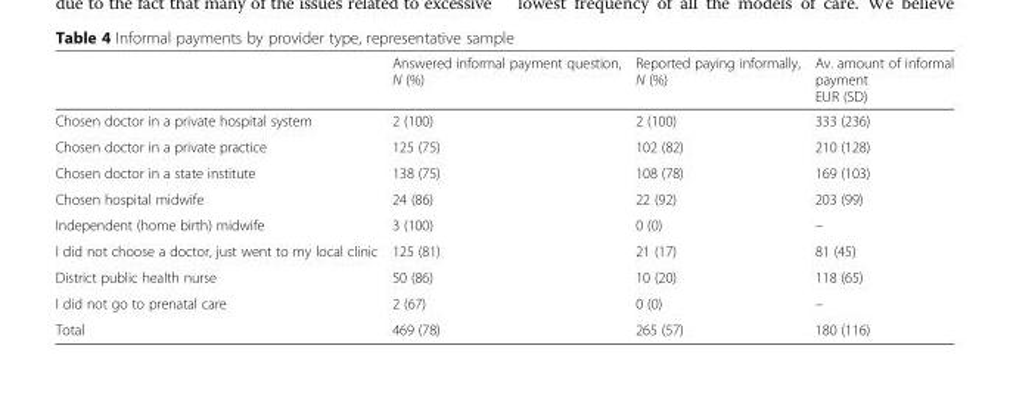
<table><thead><tr><td></td><td>Answered informal payment question, N (%)</td><td>Reported paying informally, N (%)</td><td>Av. amount of informal payment EUR (SD)</td></tr></thead><tbody><tr><td>Chosen doctor in a private hospital system</td><td>2 (100)</td><td>2 (100)</td><td>333 (236)</td></tr><tr><td>Chosen doctor in a private practice</td><td>125 (75)</td><td>102 (82)</td><td>210 (128)</td></tr><tr><td>Chosen doctor in a state institute</td><td>138 (75)</td><td>108 (78)</td><td>169 (103)</td></tr><tr><td>Chosen hospital midwife</td><td>24 (86)</td><td>22 (92)</td><td>203 (99)</td></tr><tr><td>Independent (home birth) midwife</td><td>3 (100)</td><td>0 (0)</td><td>–</td></tr><tr><td>I did not choose a doctor, just went to my local clinic</td><td>125 (81)</td><td>21 (17)</td><td>81 (45)</td></tr><tr><td>District public health nurse</td><td>50 (86)</td><td>10 (20)</td><td>118 (65)</td></tr><tr><td>I did not go to prenatal care</td><td>2 (67)</td><td>0 (0)</td><td>–</td></tr><tr><td>Total</td><td>469 (78)</td><td>265 (57)</td><td>180 (116)</td></tr></tbody></table>